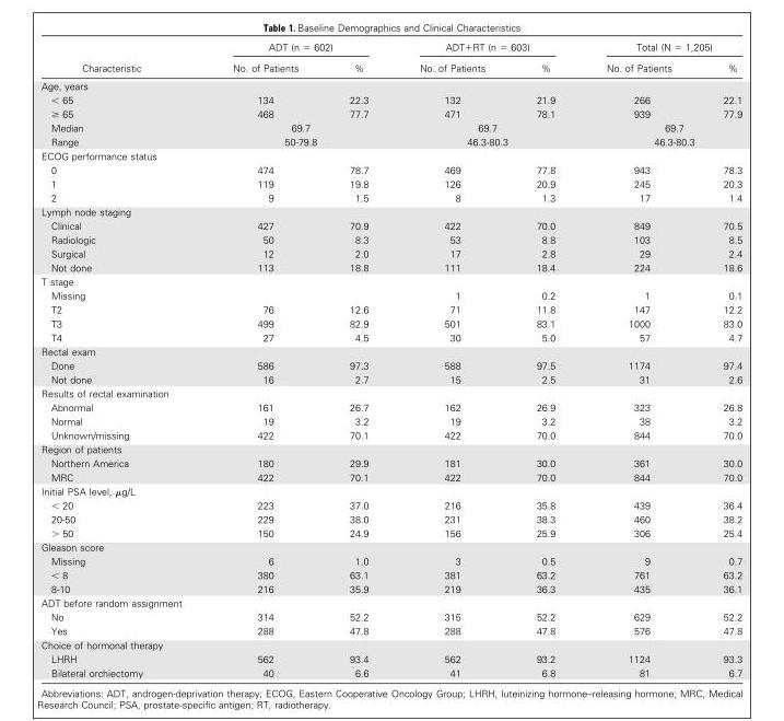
<table><thead><tr><td rowspan="2">Characteristic</td><td colspan="2">ADT (n = 602)</td><td colspan="2">ADT+RT (n = 603)</td><td colspan="2">Total (N = 1,205)</td></tr><tr><td>No. of Patients</td><td>%</td><td>No. of Patients</td><td>%</td><td>No. of Patients</td><td>%</td></tr></thead><tbody><tr><td colspan="7">Age, years</td></tr><tr><td>&lt; 65</td><td>134</td><td>22.3</td><td>132</td><td>21.9</td><td>266</td><td>22.1</td></tr><tr><td>≥ 65</td><td>468</td><td>77.7</td><td>471</td><td>78.1</td><td>939</td><td>77.9</td></tr><tr><td>Median</td><td colspan="2">69.7</td><td colspan="2">69.7</td><td colspan="2">69.7</td></tr><tr><td>Range</td><td colspan="2">50-79.8</td><td colspan="2">46.3-80.3</td><td colspan="2">46.3-80.3</td></tr><tr><td colspan="7">ECOG performance status</td></tr><tr><td>0</td><td>474</td><td>78.7</td><td>469</td><td>77.8</td><td>943</td><td>78.3</td></tr><tr><td>1</td><td>119</td><td>19.8</td><td>126</td><td>20.9</td><td>245</td><td>20.3</td></tr><tr><td>2</td><td>9</td><td>1.5</td><td>8</td><td>1.3</td><td>17</td><td>1.4</td></tr><tr><td colspan="7">Lymph node staging</td></tr><tr><td>Clinical</td><td>427</td><td>70.9</td><td>422</td><td>70.0</td><td>849</td><td>70.5</td></tr><tr><td>Radiologic</td><td>50</td><td>8.3</td><td>53</td><td>8.8</td><td>103</td><td>8.5</td></tr><tr><td>Surgical</td><td>12</td><td>2.0</td><td>17</td><td>2.8</td><td>29</td><td>2.4</td></tr><tr><td>Not done</td><td>113</td><td>18.8</td><td>111</td><td>18.4</td><td>224</td><td>18.6</td></tr><tr><td colspan="7">T stage</td></tr><tr><td>Missing</td><td></td><td></td><td>1</td><td>0.2</td><td>1</td><td>0.1</td></tr><tr><td>T2</td><td>76</td><td>12.6</td><td>71</td><td>11.8</td><td>147</td><td>12.2</td></tr><tr><td>T3</td><td>499</td><td>82.9</td><td>501</td><td>83.1</td><td>1000</td><td>83.0</td></tr><tr><td>T4</td><td>27</td><td>4.5</td><td>30</td><td>5.0</td><td>57</td><td>4.7</td></tr><tr><td colspan="7">Rectal exam</td></tr><tr><td>Done</td><td>586</td><td>97.3</td><td>588</td><td>97.5</td><td>1174</td><td>97.4</td></tr><tr><td>Not done</td><td>16</td><td>2.7</td><td>15</td><td>2.5</td><td>31</td><td>2.6</td></tr><tr><td colspan="7">Results of rectal examination</td></tr><tr><td>Abnormal</td><td>161</td><td>26.7</td><td>162</td><td>26.9</td><td>323</td><td>26.8</td></tr><tr><td>Normal</td><td>19</td><td>3.2</td><td>19</td><td>3.2</td><td>38</td><td>3.2</td></tr><tr><td>Unknown/missing</td><td>422</td><td>70.1</td><td>422</td><td>70.0</td><td>844</td><td>70.0</td></tr><tr><td colspan="7">Region of patients</td></tr><tr><td>Northern America</td><td>180</td><td>29.9</td><td>181</td><td>30.0</td><td>361</td><td>30.0</td></tr><tr><td>MRC</td><td>422</td><td>70.1</td><td>422</td><td>70.0</td><td>844</td><td>70.0</td></tr><tr><td colspan="7">Initial PSA level, μg/L</td></tr><tr><td>&lt; 20</td><td>223</td><td>37.0</td><td>216</td><td>35.8</td><td>439</td><td>36.4</td></tr><tr><td>20-50</td><td>229</td><td>38.0</td><td>231</td><td>38.3</td><td>460</td><td>38.2</td></tr><tr><td>&gt; 50</td><td>150</td><td>24.9</td><td>156</td><td>25.9</td><td>306</td><td>25.4</td></tr><tr><td colspan="7">Gleason score</td></tr><tr><td>Missing</td><td>6</td><td>1.0</td><td>3</td><td>0.5</td><td>9</td><td>0.7</td></tr><tr><td>&lt; 8</td><td>380</td><td>63.1</td><td>381</td><td>63.2</td><td>761</td><td>63.2</td></tr><tr><td>8-10</td><td>216</td><td>35.9</td><td>219</td><td>36.3</td><td>435</td><td>36.1</td></tr><tr><td colspan="7">ADT before random assignment</td></tr><tr><td>No</td><td>314</td><td>52.2</td><td>315</td><td>52.2</td><td>629</td><td>52.2</td></tr><tr><td>Yes</td><td>288</td><td>47.8</td><td>288</td><td>47.8</td><td>576</td><td>47.8</td></tr><tr><td colspan="7">Choice of hormonal therapy</td></tr><tr><td>LHRH</td><td>562</td><td>93.4</td><td>562</td><td>93.2</td><td>1124</td><td>93.3</td></tr><tr><td>Bilateral orchiectomy</td><td>40</td><td>6.6</td><td>41</td><td>6.8</td><td>81</td><td>6.7</td></tr></tbody></table>